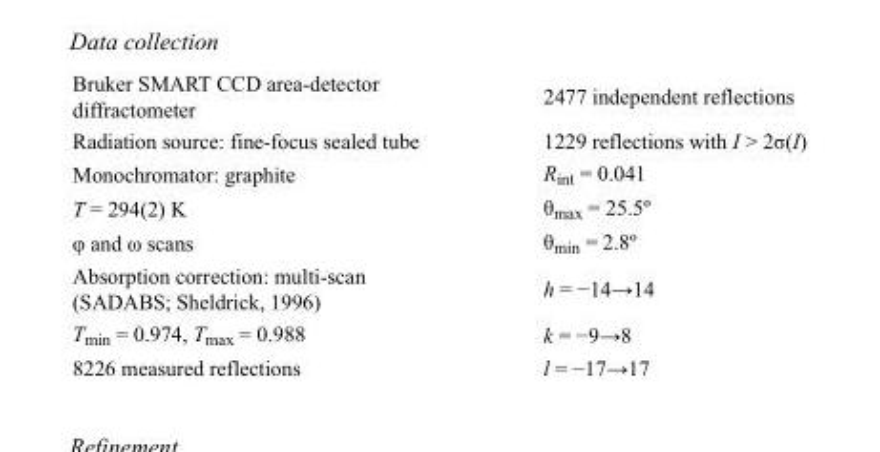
<table><tbody><tr><td>Bruker SMART CCD area-detector diffractometer</td><td>2477 independent reflections</td></tr><tr><td>Radiation source: fine-focus sealed tube</td><td>1229 reflections with I &gt; 2σ(I)</td></tr><tr><td>Monochromator: graphite</td><td>R<sub>int</sub> = 0.041</td></tr><tr><td>T = 294(2) K</td><td>θ<sub>max</sub> = 25.5º</td></tr><tr><td>φ and ω scans</td><td>θ<sub>min</sub> = 2.8º</td></tr><tr><td>Absorption correction: multi-scan (SADABS; Sheldrick, 1996)</td><td>h = −14→14</td></tr><tr><td>T<sub>min</sub> = 0.974, T<sub>max</sub> = 0.988</td><td>k = −9→8</td></tr><tr><td>8226 measured reflections</td><td>l = −17→17</td></tr></tbody></table>